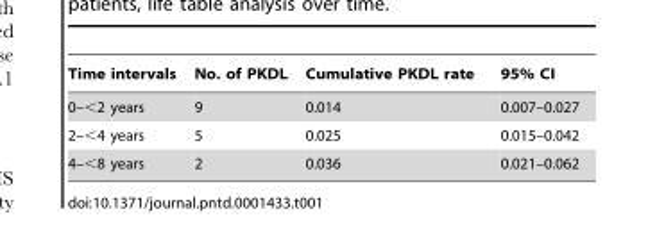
<table><thead><tr><td>Time intervals</td><td>No. of PKDL</td><td>Cumulative PKDL rate</td><td>95% CI</td></tr></thead><tbody><tr><td>0–&lt;2 years</td><td>9</td><td>0.014</td><td>0.007–0.027</td></tr><tr><td>2–&lt;4 years</td><td>5</td><td>0.025</td><td>0.015–0.042</td></tr><tr><td>4–&lt;8 years</td><td>2</td><td>0.036</td><td>0.021–0.062</td></tr></tbody></table>